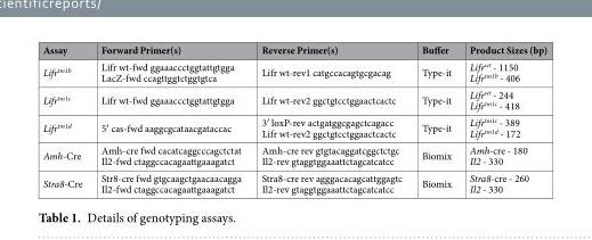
<table><thead><tr><td>Assay</td><td>Forward Primer(s)</td><td>Reverse Primer(s)</td><td>Buffer</td><td>Product Sizes (bp)</td></tr></thead><tbody><tr><td>Lifr<sup>tm1b</sup></td><td>Lifr wt-fwd ggaaaccctggtattgtgga LacZ-fwd ccagttggtctggtgtca</td><td>Lifr wt-rev1 catgccacagtgcgacag</td><td>Type-it</td><td>Lifr<sup>wt</sup> - 1150 Lifr<sup>tm1b</sup> - 406</td></tr><tr><td>Lifr<sup>tm1c</sup></td><td>Lifr wt-fwd ggaaaccctggtattgtgga</td><td>Lifr wt-rev2 ggctgtcctggaactcactc</td><td>Type-it</td><td>Lifr<sup>wt</sup> - 244 Lifr<sup>tm1c</sup> - 418</td></tr><tr><td>Lifr<sup>tm1d</sup></td><td>5′ cas-fwd aaggcgcataacgataccac</td><td>3′ loxP-rev actgatggcgagctcagacc Lifr wt-rev2 ggctgtcctggaactcactc</td><td>Type-it</td><td>Lifr<sup>tm1c</sup> - 389 Lifr<sup>tm1d</sup> - 172</td></tr><tr><td>Amh-Cre</td><td>Amh-cre fwd cacatcaggcccagctctat Il2-fwd ctaggccacagaattgaaagatct</td><td>Amh-cre rev gtgtacaggatcggctctgc Il2-rev gtaggtggaaattctagcatcatcc</td><td>Biomix</td><td>Amh-cre - 180 Il2 - 330</td></tr><tr><td>Stra8-Cre</td><td>Str8-cre fwd gtgcaagctgaacaacagga Il2-fwd ctaggccacagaattgaaagatct</td><td>Stra8-cre rev agggacacagcattggagtc Il2-rev gtaggtggaaattctagcatcatcc</td><td>Biomix</td><td>Stra8-cre - 260 Il2 - 330</td></tr></tbody></table>